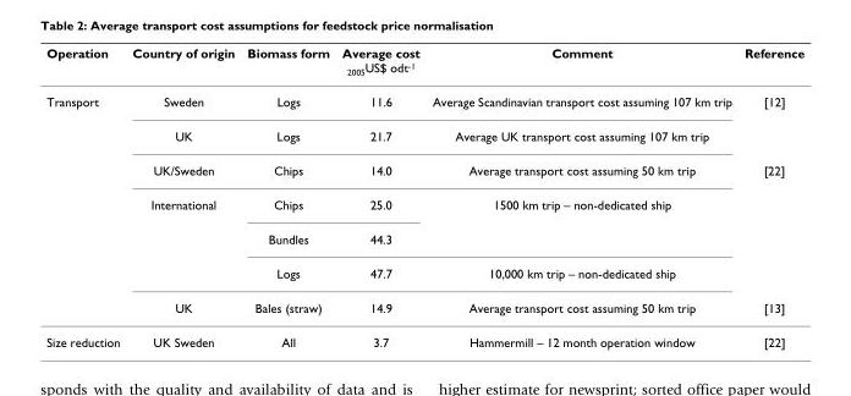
<table><thead><tr><td>Operation</td><td>Country of origin</td><td>Biomass form</td><td>Average cost <sub>2005</sub>US$ odt<sup>-1</sup></td><td>Comment</td><td>Reference</td></tr></thead><tbody><tr><td rowspan="7">Transport</td><td>Sweden</td><td>Logs</td><td>11.6</td><td>Average Scandinavian transport cost assuming 107 km trip</td><td>[12]</td></tr><tr><td>UK</td><td>Logs</td><td>21.7</td><td>Average UK transport cost assuming 107 km trip</td><td></td></tr><tr><td>UK/Sweden</td><td>Chips</td><td>14.0</td><td>Average transport cost assuming 50 km trip</td><td>[22]</td></tr><tr><td>International</td><td>Chips</td><td>25.0</td><td>1500 km trip – non-dedicated ship</td><td></td></tr><tr><td></td><td>Bundles</td><td>44.3</td><td></td><td></td></tr><tr><td></td><td>Logs</td><td>47.7</td><td>10,000 km trip – non-dedicated ship</td><td></td></tr><tr><td>UK</td><td>Bales (straw)</td><td>14.9</td><td>Average transport cost assuming 50 km trip</td><td>[13]</td></tr><tr><td>Size reduction</td><td>UK Sweden</td><td>All</td><td>3.7</td><td>Hammermill – 12 month operation window</td><td>[22]</td></tr></tbody></table>